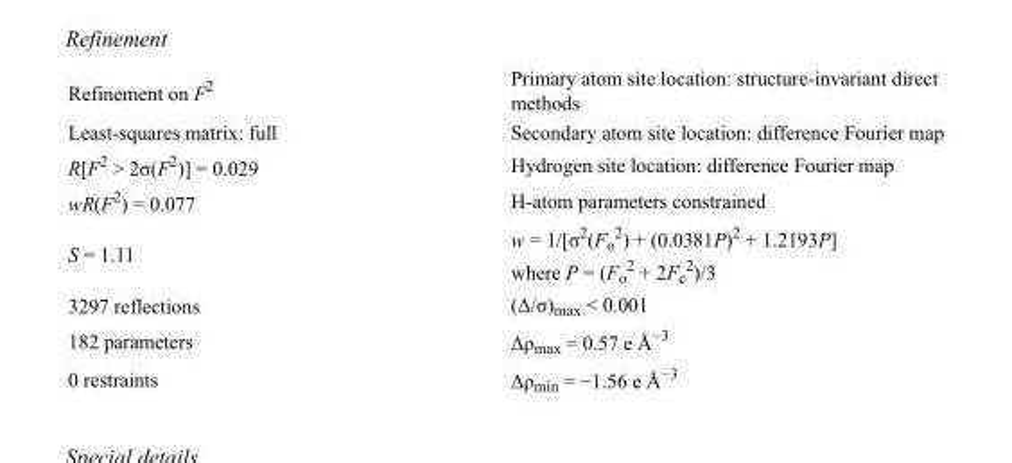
<table><tbody><tr><td>Refinement on F<sup>2</sup></td><td>Primary atom site location: structure-invariant direct methods</td></tr><tr><td>Least-squares matrix: full</td><td>Secondary atom site location: difference Fourier map</td></tr><tr><td>R[F<sup>2</sup> &gt; 2σ(F<sup>2</sup>)] = 0.029</td><td>Hydrogen site location: difference Fourier map</td></tr><tr><td>wR(F<sup>2</sup>) = 0.077</td><td>H-atom parameters constrained</td></tr><tr><td>S = 1.11</td><td>w = 1/[σ<sup>2</sup>(F<sub>o</sub> <sup>2</sup>) + (0.0381P)<sup>2</sup> + 1.2193P] where P = (F<sub>o</sub> <sup>2</sup> + 2F<sub>c</sub> <sup>2</sup>)/3</td></tr><tr><td>3297 reflections</td><td>(Δ/σ)<sub>max</sub> &lt; 0.001</td></tr><tr><td>182 parameters</td><td>Δρ<sub>max</sub> = 0.57 e Å<sup>−3</sup></td></tr><tr><td>0 restraints</td><td>Δρ<sub>min</sub> = −1.56 e Å<sup>−3</sup></td></tr></tbody></table>